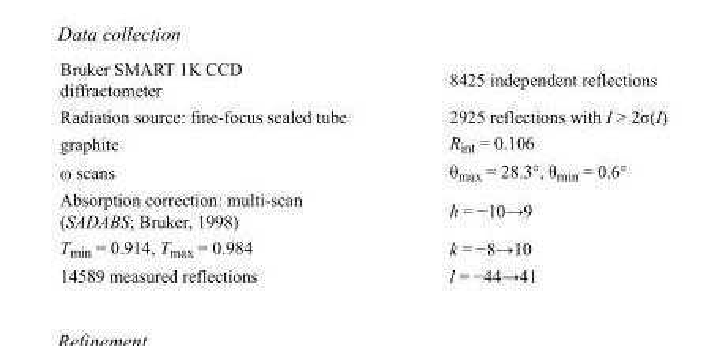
<table><tbody><tr><td>Bruker SMART 1K CCD diffractometer</td><td>8425 independent reflections</td></tr><tr><td>Radiation source: fine-focus sealed tube</td><td>2925 reflections with I &gt; 2σ(I)</td></tr><tr><td>graphite</td><td>R<sub>int</sub> = 0.106</td></tr><tr><td>ω scans</td><td>θ<sub>max</sub> = 28.3°, θ<sub>min</sub> = 0.6°</td></tr><tr><td>Absorption correction: multi-scan (SADABS; Bruker, 1998)</td><td>h = −10→9</td></tr><tr><td>T<sub>min</sub> = 0.914, T<sub>max</sub> = 0.984</td><td>k = −8→10</td></tr><tr><td>14589 measured reflections</td><td>l = −44→41</td></tr></tbody></table>